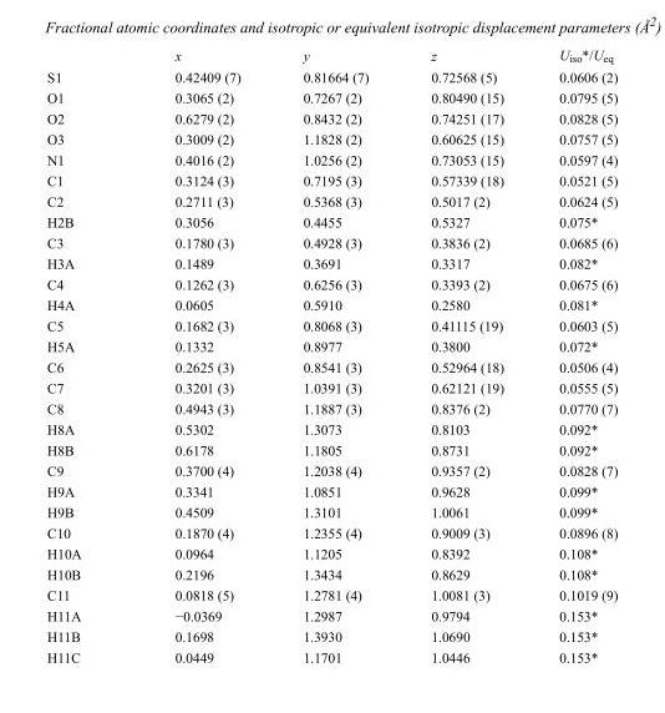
<table><thead><tr><td></td><td>x</td><td>y</td><td>z</td><td>U<sub>iso</sub>*/U<sub>eq</sub></td></tr></thead><tbody><tr><td>S1</td><td>0.42409 (7)</td><td>0.81664 (7)</td><td>0.72568 (5)</td><td>0.0606 (2)</td></tr><tr><td>O1</td><td>0.3065 (2)</td><td>0.7267 (2)</td><td>0.80490 (15)</td><td>0.0795 (5)</td></tr><tr><td>O2</td><td>0.6279 (2)</td><td>0.8432 (2)</td><td>0.74251 (17)</td><td>0.0828 (5)</td></tr><tr><td>O3</td><td>0.3009 (2)</td><td>1.1828 (2)</td><td>0.60625 (15)</td><td>0.0757 (5)</td></tr><tr><td>N1</td><td>0.4016 (2)</td><td>1.0256 (2)</td><td>0.73053 (15)</td><td>0.0597 (4)</td></tr><tr><td>C1</td><td>0.3124 (3)</td><td>0.7195 (3)</td><td>0.57339 (18)</td><td>0.0521 (5)</td></tr><tr><td>C2</td><td>0.2711 (3)</td><td>0.5368 (3)</td><td>0.5017 (2)</td><td>0.0624 (5)</td></tr><tr><td>H2B</td><td>0.3056</td><td>0.4455</td><td>0.5327</td><td>0.075*</td></tr><tr><td>C3</td><td>0.1780 (3)</td><td>0.4928 (3)</td><td>0.3836 (2)</td><td>0.0685 (6)</td></tr><tr><td>H3A</td><td>0.1489</td><td>0.3691</td><td>0.3317</td><td>0.082*</td></tr><tr><td>C4</td><td>0.1262 (3)</td><td>0.6256 (3)</td><td>0.3393 (2)</td><td>0.0675 (6)</td></tr><tr><td>H4A</td><td>0.0605</td><td>0.5910</td><td>0.2580</td><td>0.081*</td></tr><tr><td>C5</td><td>0.1682 (3)</td><td>0.8068 (3)</td><td>0.41115 (19)</td><td>0.0603 (5)</td></tr><tr><td>H5A</td><td>0.1332</td><td>0.8977</td><td>0.3800</td><td>0.072*</td></tr><tr><td>C6</td><td>0.2625 (3)</td><td>0.8541 (3)</td><td>0.52964 (18)</td><td>0.0506 (4)</td></tr><tr><td>C7</td><td>0.3201 (3)</td><td>1.0391 (3)</td><td>0.62121 (19)</td><td>0.0555 (5)</td></tr><tr><td>C8</td><td>0.4943 (3)</td><td>1.1887 (3)</td><td>0.8376 (2)</td><td>0.0770 (7)</td></tr><tr><td>H8A</td><td>0.5302</td><td>1.3073</td><td>0.8103</td><td>0.092*</td></tr><tr><td>H8B</td><td>0.6178</td><td>1.1805</td><td>0.8731</td><td>0.092*</td></tr><tr><td>C9</td><td>0.3700 (4)</td><td>1.2038 (4)</td><td>0.9357 (2)</td><td>0.0828 (7)</td></tr><tr><td>H9A</td><td>0.3341</td><td>1.0851</td><td>0.9628</td><td>0.099*</td></tr><tr><td>H9B</td><td>0.4509</td><td>1.3101</td><td>1.0061</td><td>0.099*</td></tr><tr><td>C10</td><td>0.1870 (4)</td><td>1.2355 (4)</td><td>0.9009 (3)</td><td>0.0896 (8)</td></tr><tr><td>H10A</td><td>0.0964</td><td>1.1205</td><td>0.8392</td><td>0.108*</td></tr><tr><td>H10B</td><td>0.2196</td><td>1.3434</td><td>0.8629</td><td>0.108*</td></tr><tr><td>C11</td><td>0.0818 (5)</td><td>1.2781 (4)</td><td>1.0081 (3)</td><td>0.1019 (9)</td></tr><tr><td>H11A</td><td>−0.0369</td><td>1.2987</td><td>0.9794</td><td>0.153*</td></tr><tr><td>H11B</td><td>0.1698</td><td>1.3930</td><td>1.0690</td><td>0.153*</td></tr><tr><td>H11C</td><td>0.0449</td><td>1.1701</td><td>1.0446</td><td>0.153*</td></tr></tbody></table>